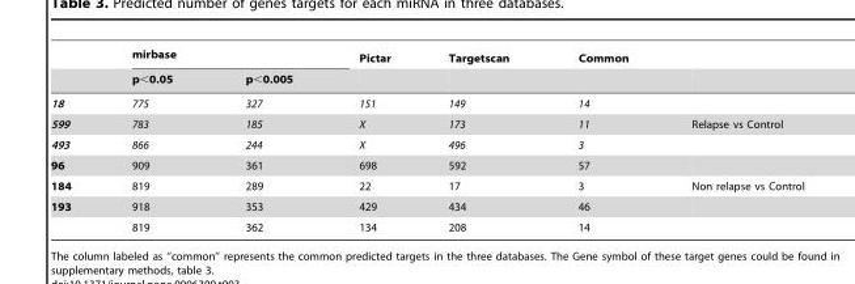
<table><thead><tr><td rowspan="2"></td><td colspan="2">mirbase</td><td rowspan="2">Pictar</td><td rowspan="2">Targetscan</td><td rowspan="2">Common</td><td rowspan="2"></td></tr><tr><td>p&lt;0.05</td><td>p&lt;0.005</td></tr></thead><tbody><tr><td>18</td><td>775</td><td>327</td><td>151</td><td>149</td><td>14</td><td></td></tr><tr><td>599</td><td>783</td><td>185</td><td>X</td><td>173</td><td>11</td><td>Relapse vs Control</td></tr><tr><td>493</td><td>866</td><td>244</td><td>X</td><td>496</td><td>3</td><td></td></tr><tr><td>96</td><td>909</td><td>361</td><td>698</td><td>592</td><td>57</td><td></td></tr><tr><td>184</td><td>819</td><td>289</td><td>22</td><td>17</td><td>3</td><td>Non relapse vs Control</td></tr><tr><td rowspan="2">193</td><td>918</td><td>353</td><td>429</td><td>434</td><td>46</td><td></td></tr><tr><td>819</td><td>362</td><td>134</td><td>208</td><td>14</td><td></td></tr></tbody></table>